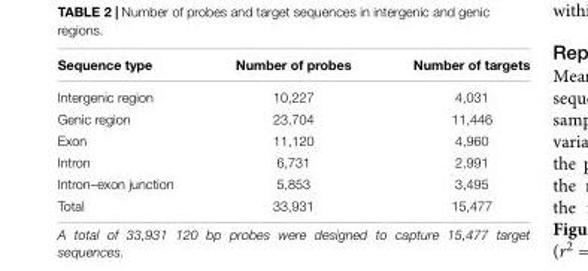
<table><thead><tr><td>Sequence type</td><td>Number of probes</td><td>Number of targets</td></tr></thead><tbody><tr><td>Intergenic region</td><td>10,227</td><td>4,031</td></tr><tr><td>Genic region</td><td>23,704</td><td>11,446</td></tr><tr><td>Exon</td><td>11,120</td><td>4,960</td></tr><tr><td>Intron</td><td>6,731</td><td>2,991</td></tr><tr><td>Intron–exon junction</td><td>5,853</td><td>3,495</td></tr><tr><td>Total</td><td>33,931</td><td>15,477</td></tr></tbody></table>